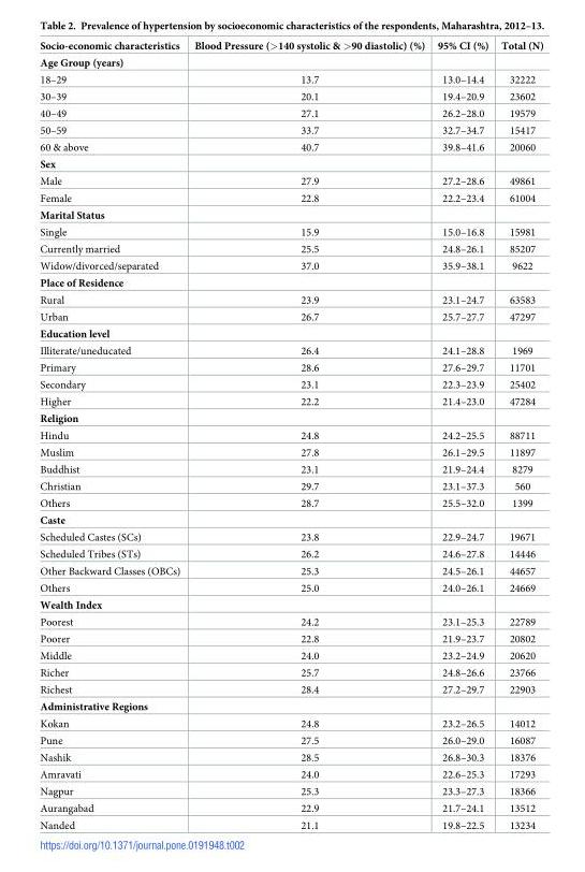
<table><thead><tr><td>Socio-economic characteristics</td><td>Blood Pressure (&gt;140 systolic &amp; &gt;90 diastolic) (%)</td><td>95% CI (%)</td><td>Total (N)</td></tr></thead><tbody><tr><td colspan="4">Age Group (years)</td></tr><tr><td>18–29</td><td>13.7</td><td>13.0–14.4</td><td>32222</td></tr><tr><td>30–39</td><td>20.1</td><td>19.4–20.9</td><td>23602</td></tr><tr><td>40–49</td><td>27.1</td><td>26.2–28.0</td><td>19579</td></tr><tr><td>50–59</td><td>33.7</td><td>32.7–34.7</td><td>15417</td></tr><tr><td>60 &amp; above</td><td>40.7</td><td>39.8–41.6</td><td>20060</td></tr><tr><td colspan="4">Sex</td></tr><tr><td>Male</td><td>27.9</td><td>27.2–28.6</td><td>49861</td></tr><tr><td>Female</td><td>22.8</td><td>22.2–23.4</td><td>61004</td></tr><tr><td colspan="4">Marital Status</td></tr><tr><td>Single</td><td>15.9</td><td>15.0–16.8</td><td>15981</td></tr><tr><td>Currently married</td><td>25.5</td><td>24.8–26.1</td><td>85207</td></tr><tr><td>Widow/divorced/separated</td><td>37.0</td><td>35.9–38.1</td><td>9622</td></tr><tr><td colspan="4">Place of Residence</td></tr><tr><td>Rural</td><td>23.9</td><td>23.1–24.7</td><td>63583</td></tr><tr><td>Urban</td><td>26.7</td><td>25.7–27.7</td><td>47297</td></tr><tr><td colspan="4">Education level</td></tr><tr><td>Illiterate/uneducated</td><td>26.4</td><td>24.1–28.8</td><td>1969</td></tr><tr><td>Primary</td><td>28.6</td><td>27.6–29.7</td><td>11701</td></tr><tr><td>Secondary</td><td>23.1</td><td>22.3–23.9</td><td>25402</td></tr><tr><td>Higher</td><td>22.2</td><td>21.4–23.0</td><td>47284</td></tr><tr><td colspan="4">Religion</td></tr><tr><td>Hindu</td><td>24.8</td><td>24.2–25.5</td><td>88711</td></tr><tr><td>Muslim</td><td>27.8</td><td>26.1–29.5</td><td>11897</td></tr><tr><td>Buddhist</td><td>23.1</td><td>21.9–24.4</td><td>8279</td></tr><tr><td>Christian</td><td>29.7</td><td>23.1–37.3</td><td>560</td></tr><tr><td>Others</td><td>28.7</td><td>25.5–32.0</td><td>1399</td></tr><tr><td colspan="4">Caste</td></tr><tr><td>Scheduled Castes (SCs)</td><td>23.8</td><td>22.9–24.7</td><td>19671</td></tr><tr><td>Scheduled Tribes (STs)</td><td>26.2</td><td>24.6–27.8</td><td>14446</td></tr><tr><td>Other Backward Classes (OBCs)</td><td>25.3</td><td>24.5–26.1</td><td>44657</td></tr><tr><td>Others</td><td>25.0</td><td>24.0–26.1</td><td>24669</td></tr><tr><td colspan="4">Wealth Index</td></tr><tr><td>Poorest</td><td>24.2</td><td>23.1–25.3</td><td>22789</td></tr><tr><td>Poorer</td><td>22.8</td><td>21.9–23.7</td><td>20802</td></tr><tr><td>Middle</td><td>24.0</td><td>23.2–24.9</td><td>20620</td></tr><tr><td>Richer</td><td>25.7</td><td>24.8–26.6</td><td>23766</td></tr><tr><td>Richest</td><td>28.4</td><td>27.2–29.7</td><td>22903</td></tr><tr><td colspan="4">Administrative Regions</td></tr><tr><td>Kokan</td><td>24.8</td><td>23.2–26.5</td><td>14012</td></tr><tr><td>Pune</td><td>27.5</td><td>26.0–29.0</td><td>16087</td></tr><tr><td>Nashik</td><td>28.5</td><td>26.8–30.3</td><td>18376</td></tr><tr><td>Amravati</td><td>24.0</td><td>22.6–25.3</td><td>17293</td></tr><tr><td>Nagpur</td><td>25.3</td><td>23.3–27.3</td><td>18366</td></tr><tr><td>Aurangabad</td><td>22.9</td><td>21.7–24.1</td><td>13512</td></tr><tr><td>Nanded</td><td>21.1</td><td>19.8–22.5</td><td>13234</td></tr></tbody></table>